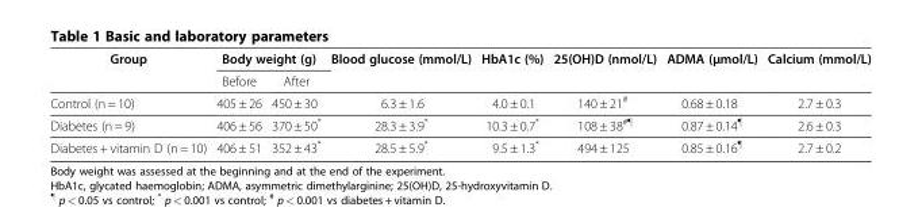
<table><thead><tr><td rowspan="2">Group</td><td colspan="2">Body weight (g)</td><td rowspan="2">Blood glucose (mmol/L)</td><td rowspan="2">HbA1c (%)</td><td rowspan="2">25(OH)D (nmol/L)</td><td rowspan="2">ADMA (μmol/L)</td><td rowspan="2">Calcium (mmol/L)</td></tr><tr><td>Before</td><td>After</td></tr></thead><tbody><tr><td>Control (n = 10)</td><td>405 ± 26</td><td>450 ± 30</td><td>6.3 ± 1.6</td><td>4.0 ± 0.1</td><td>140 ± 21<sup>#</sup></td><td>0.68 ± 0.18</td><td>2.7 ± 0.3</td></tr><tr><td>Diabetes (n = 9)</td><td>406 ± 56</td><td>370 ± 50*</td><td>28.3 ± 3.9*</td><td>10.3 ± 0.7*</td><td>108 ± 38<sup>#¶</sup></td><td>0.87 ± 0.14<sup>¶</sup></td><td>2.6 ± 0.3</td></tr><tr><td>Diabetes + vitamin D (n = 10)</td><td>406 ± 51</td><td>352 ± 43*</td><td>28.5 ± 5.9*</td><td>9.5 ± 1.3*</td><td>494 ± 125</td><td>0.85 ± 0.16<sup>¶</sup></td><td>2.7 ± 0.2</td></tr></tbody></table>